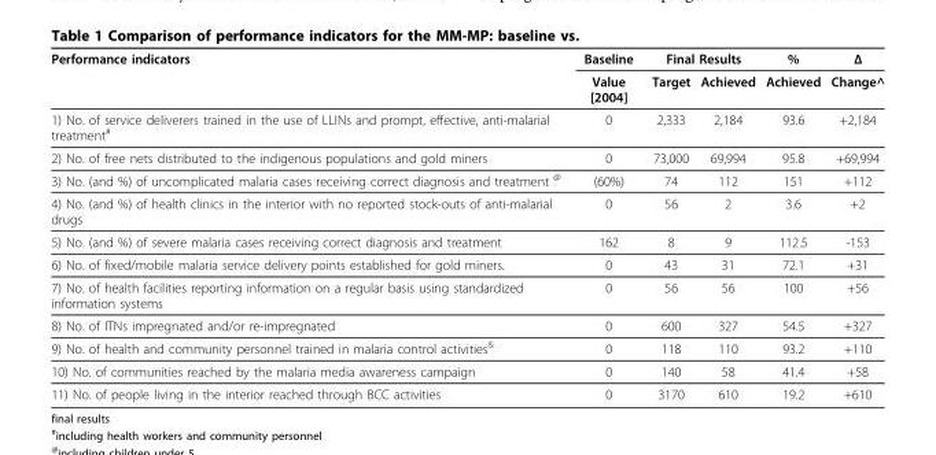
<table><thead><tr><td rowspan="2">Performance indicators</td><td rowspan="2">Baseline Value [2004]</td><td colspan="2">Final Results</td><td rowspan="2">% Achieved</td><td rowspan="2">Δ Change^</td></tr><tr><td>Target</td><td>Achieved</td></tr></thead><tbody><tr><td>1) No. of service deliverers trained in the use of LLINs and prompt, effective, anti-malarial treatment<sup>#</sup></td><td>0</td><td>2,333</td><td>2,184</td><td>93.6</td><td>+2,184</td></tr><tr><td>2) No. of free nets distributed to the indigenous populations and gold miners</td><td>0</td><td>73,000</td><td>69,994</td><td>95.8</td><td>+69,994</td></tr><tr><td>3) No. (and %) of uncomplicated malaria cases receiving correct diagnosis and treatment <sup>@</sup></td><td>(60%)</td><td>74</td><td>112</td><td>151</td><td>+112</td></tr><tr><td>4) No. (and %) of health clinics in the interior with no reported stock-outs of anti-malarial drugs</td><td>0</td><td>56</td><td>2</td><td>3.6</td><td>+2</td></tr><tr><td>5) No. (and %) of severe malaria cases receiving correct diagnosis and treatment</td><td>162</td><td>8</td><td>9</td><td>112.5</td><td>-153</td></tr><tr><td>6) No. of fixed/mobile malaria service delivery points established for gold miners.</td><td>0</td><td>43</td><td>31</td><td>72.1</td><td>+31</td></tr><tr><td>7) No. of health facilities reporting information on a regular basis using standardized information systems</td><td>0</td><td>56</td><td>56</td><td>100</td><td>+56</td></tr><tr><td>8) No. of ITNs impregnated and/or re-impregnated</td><td>0</td><td>600</td><td>327</td><td>54.5</td><td>+327</td></tr><tr><td>9) No. of health and community personnel trained in malaria control activities<sup>&amp;</sup></td><td>0</td><td>118</td><td>110</td><td>93.2</td><td>+110</td></tr><tr><td>10) No. of communities reached by the malaria media awareness campaign</td><td>0</td><td>140</td><td>58</td><td>41.4</td><td>+58</td></tr><tr><td>11) No. of people living in the interior reached through BCC activities</td><td>0</td><td>3170</td><td>610</td><td>19.2</td><td>+610</td></tr></tbody></table>